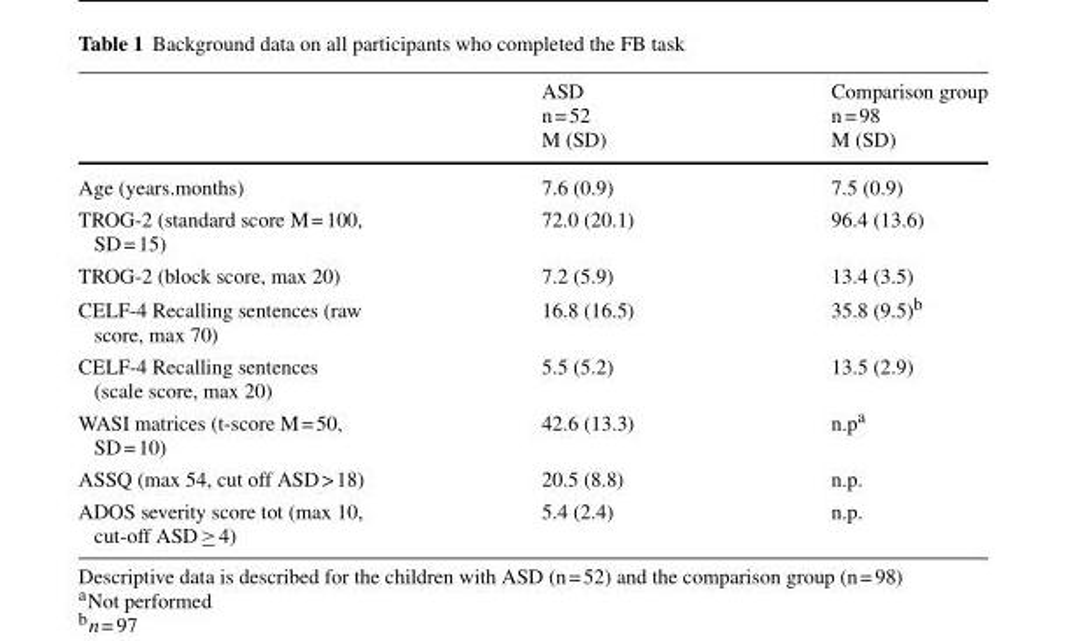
<table><thead><tr><td rowspan="2"></td><td rowspan="2">ASD n=52 M (SD)</td><td rowspan="2">Comparison group n=98 M (SD)</td></tr><tr></tr></thead><tbody><tr><td>Age (years.months)</td><td>7.6 (0.9)</td><td>7.5 (0.9)</td></tr><tr><td>TROG-2 (standard score M=100, SD=15)</td><td>72.0 (20.1)</td><td>96.4 (13.6)</td></tr><tr><td>TROG-2 (block score, max 20)</td><td>7.2 (5.9)</td><td>13.4 (3.5)</td></tr><tr><td>CELF-4 Recalling sentences (raw score, max 70)</td><td>16.8 (16.5)</td><td>35.8 (9.5)<sup>b</sup></td></tr><tr><td>CELF-4 Recalling sentences (scale score, max 20)</td><td>5.5 (5.2)</td><td>13.5 (2.9)</td></tr><tr><td>WASI matrices (t-score M=50, SD=10)</td><td>42.6 (13.3)</td><td>n.p<sup>a</sup></td></tr><tr><td>ASSQ (max 54, cut off ASD&gt;18)</td><td>20.5 (8.8)</td><td>n.p.</td></tr><tr><td>ADOS severity score tot (max 10, cut-off ASD≥4)</td><td>5.4 (2.4)</td><td>n.p.</td></tr></tbody></table>